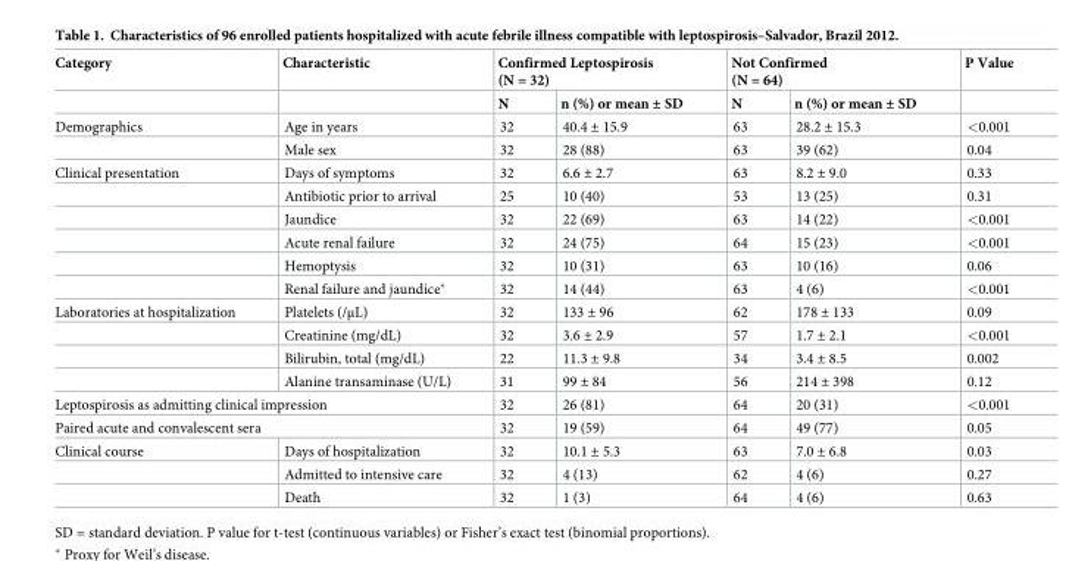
<table><thead><tr><td rowspan="2">Category</td><td rowspan="2">Characteristic</td><td colspan="2">Confirmed Leptospirosis (N = 32)</td><td colspan="2">Not Confirmed (N = 64)</td><td rowspan="2">P Value</td></tr><tr><td>N</td><td>n (%) or mean ± SD</td><td>N</td><td>n (%) or mean ± SD</td></tr></thead><tbody><tr><td rowspan="2">Demographics</td><td>Age in years</td><td>32</td><td>40.4 ± 15.9</td><td>63</td><td>28.2 ± 15.3</td><td>&lt;0.001</td></tr><tr><td>Male sex</td><td>32</td><td>28 (88)</td><td>63</td><td>39 (62)</td><td>0.04</td></tr><tr><td rowspan="6">Clinical presentation</td><td>Days of symptoms</td><td>32</td><td>6.6 ± 2.7</td><td>63</td><td>8.2 ± 9.0</td><td>0.33</td></tr><tr><td>Antibiotic prior to arrival</td><td>25</td><td>10 (40)</td><td>53</td><td>13 (25)</td><td>0.31</td></tr><tr><td>Jaundice</td><td>32</td><td>22 (69)</td><td>63</td><td>14 (22)</td><td>&lt;0.001</td></tr><tr><td>Acute renal failure</td><td>32</td><td>24 (75)</td><td>64</td><td>15 (23)</td><td>&lt;0.001</td></tr><tr><td>Hemoptysis</td><td>32</td><td>10 (31)</td><td>63</td><td>10 (16)</td><td>0.06</td></tr><tr><td>Renal failure and jaundice*</td><td>32</td><td>14 (44)</td><td>63</td><td>4 (6)</td><td>&lt;0.001</td></tr><tr><td rowspan="4">Laboratories at hospitalization</td><td>Platelets (/μL)</td><td>32</td><td>133 ± 96</td><td>62</td><td>178 ± 133</td><td>0.09</td></tr><tr><td>Creatinine (mg/dL)</td><td>32</td><td>3.6 ± 2.9</td><td>57</td><td>1.7 ± 2.1</td><td>&lt;0.001</td></tr><tr><td>Bilirubin, total (mg/dL)</td><td>22</td><td>11.3 ± 9.8</td><td>34</td><td>3.4 ± 8.5</td><td>0.002</td></tr><tr><td>Alanine transaminase (U/L)</td><td>31</td><td>99 ± 84</td><td>56</td><td>214 ± 398</td><td>0.12</td></tr><tr><td colspan="2">Leptospirosis as admitting clinical impression</td><td>32</td><td>26 (81)</td><td>64</td><td>20 (31)</td><td>&lt;0.001</td></tr><tr><td colspan="2">Paired acute and convalescent sera</td><td>32</td><td>19 (59)</td><td>64</td><td>49 (77)</td><td>0.05</td></tr><tr><td rowspan="3">Clinical course</td><td>Days of hospitalization</td><td>32</td><td>10.1 ± 5.3</td><td>63</td><td>7.0 ± 6.8</td><td>0.03</td></tr><tr><td>Admitted to intensive care</td><td>32</td><td>4 (13)</td><td>62</td><td>4 (6)</td><td>0.27</td></tr><tr><td>Death</td><td>32</td><td>1 (3)</td><td>64</td><td>4 (6)</td><td>0.63</td></tr></tbody></table>